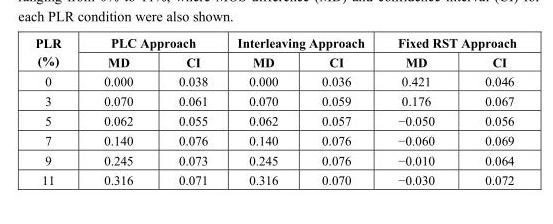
<table><thead><tr><td rowspan="2">PLR (%)</td><td colspan="2">PLC Approach</td><td colspan="2">Interleaving Approach</td><td colspan="2">Fixed RST Approach</td></tr><tr><td>MD</td><td>CI</td><td>MD</td><td>CI</td><td>MD</td><td>CI</td></tr></thead><tbody><tr><td>0</td><td>0.000</td><td>0.038</td><td>0.000</td><td>0.036</td><td>0.421</td><td>0.046</td></tr><tr><td>3</td><td>0.070</td><td>0.061</td><td>0.070</td><td>0.059</td><td>0.176</td><td>0.067</td></tr><tr><td>5</td><td>0.062</td><td>0.055</td><td>0.062</td><td>0.057</td><td>−0.050</td><td>0.056</td></tr><tr><td>7</td><td>0.140</td><td>0.076</td><td>0.140</td><td>0.076</td><td>−0.060</td><td>0.069</td></tr><tr><td>9</td><td>0.245</td><td>0.073</td><td>0.245</td><td>0.076</td><td>−0.010</td><td>0.064</td></tr><tr><td>11</td><td>0.316</td><td>0.071</td><td>0.316</td><td>0.070</td><td>−0.030</td><td>0.072</td></tr></tbody></table>